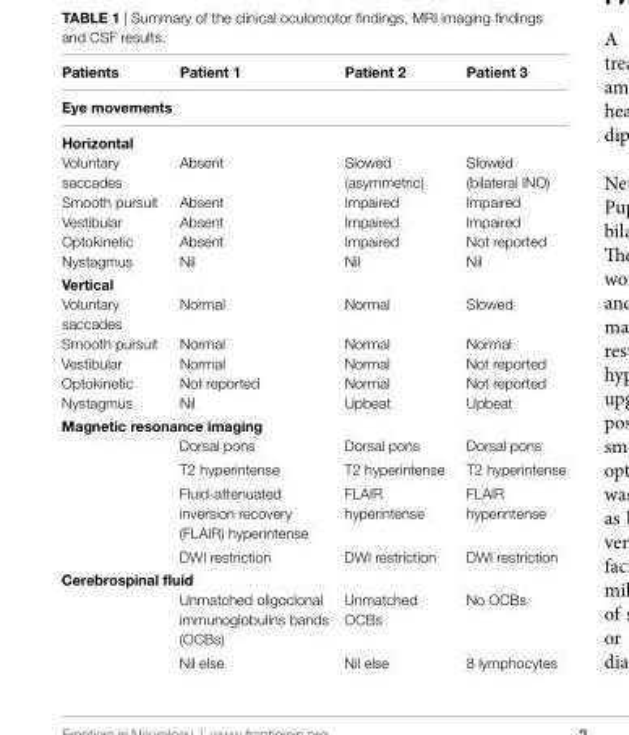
<table><thead><tr><td>patients</td><td>patient 1</td><td>patient 2</td><td>patient 3</td></tr><tr><td colspan="4">eye movements</td></tr></thead><tbody><tr><td colspan="4">Horizontal</td></tr><tr><td>Voluntary saccades</td><td>Absent</td><td>Slowed (asymmetric)</td><td>Slowed (bilateral INO)</td></tr><tr><td>Smooth pursuit</td><td>Absent</td><td>Impaired</td><td>Impaired</td></tr><tr><td>Vestibular</td><td>Absent</td><td>Impaired</td><td>Impaired</td></tr><tr><td>Optokinetic</td><td>Absent</td><td>Impaired</td><td>Not reported</td></tr><tr><td>Nystagmus</td><td>Nil</td><td>Nil</td><td>Nil</td></tr><tr><td colspan="4">Vertical</td></tr><tr><td>Voluntary saccades</td><td>Normal</td><td>Normal</td><td>Slowed</td></tr><tr><td>Smooth pursuit</td><td>Normal</td><td>Normal</td><td>Normal</td></tr><tr><td>Vestibular</td><td>Normal</td><td>Normal</td><td>Not reported</td></tr><tr><td>Optokinetic</td><td>Not reported</td><td>Normal</td><td>Not reported</td></tr><tr><td>Nystagmus</td><td>Nil</td><td>Upbeat</td><td>Upbeat</td></tr><tr><td colspan="4">Magnetic resonance imaging</td></tr><tr><td></td><td>Dorsal pons</td><td>Dorsal pons</td><td>Dorsal pons</td></tr><tr><td></td><td>T2 hyperintense</td><td>T2 hyperintense</td><td>T2 hyperintense</td></tr><tr><td></td><td>Fluid-attenuated inversion recovery (FLAIR) hyperintense</td><td>FLAIR hyperintense</td><td>FLAIR hyperintense</td></tr><tr><td></td><td>DWI restriction</td><td>DWI restriction</td><td>DWI restriction</td></tr><tr><td colspan="4">Cerebrospinal fluid</td></tr><tr><td></td><td>Unmatched oligoclonal immunoglobulins bands (OCBs)</td><td>Unmatched OCBs</td><td>No OCBs</td></tr><tr><td></td><td>Nil else</td><td>Nil else</td><td>8 lymphocytes</td></tr></tbody></table>